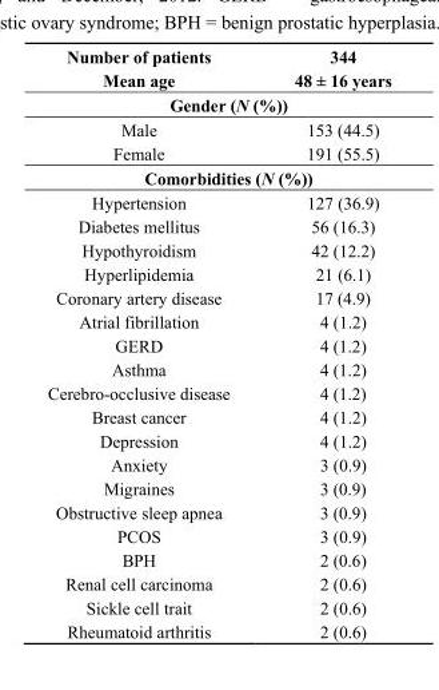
<table><thead><tr><td rowspan="2">Number of patients Mean age</td><td rowspan="2">344 48 ± 16 years</td></tr><tr></tr></thead><tbody><tr><td colspan="2">Gender (N (%))</td></tr><tr><td>Male</td><td>153 (44.5)</td></tr><tr><td>Female</td><td>191 (55.5)</td></tr><tr><td colspan="2">Comorbidities (N (%))</td></tr><tr><td>Hypertension</td><td>127 (36.9)</td></tr><tr><td>Diabetes mellitus</td><td>56 (16.3)</td></tr><tr><td>Hypothyroidism</td><td>42 (12.2)</td></tr><tr><td>Hyperlipidemia</td><td>21 (6.1)</td></tr><tr><td>Coronary artery disease</td><td>17 (4.9)</td></tr><tr><td>Atrial fibrillation</td><td>4 (1.2)</td></tr><tr><td>GERD</td><td>4 (1.2)</td></tr><tr><td>Asthma</td><td>4 (1.2)</td></tr><tr><td>Cerebro-occlusive disease</td><td>4 (1.2)</td></tr><tr><td>Breast cancer</td><td>4 (1.2)</td></tr><tr><td>Depression</td><td>4 (1.2)</td></tr><tr><td>Anxiety</td><td>3 (0.9)</td></tr><tr><td>Migraines</td><td>3 (0.9)</td></tr><tr><td>Obstructive sleep apnea</td><td>3 (0.9)</td></tr><tr><td>PCOS</td><td>3 (0.9)</td></tr><tr><td>BPH</td><td>2 (0.6)</td></tr><tr><td>Renal cell carcinoma</td><td>2 (0.6)</td></tr><tr><td>Sickle cell trait</td><td>2 (0.6)</td></tr><tr><td>Rheumatoid arthritis</td><td>2 (0.6)</td></tr></tbody></table>